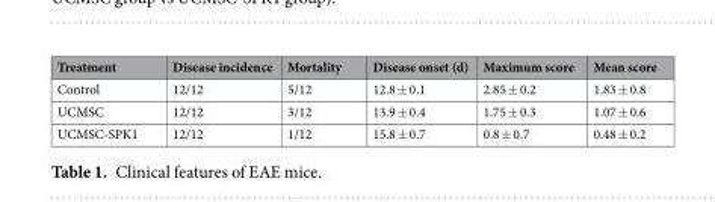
<table><thead><tr><td>Treatment</td><td>Disease incidence</td><td>Mortality</td><td>Disease onset (d)</td><td>Maximum score</td><td>Mean score</td></tr></thead><tbody><tr><td>Control</td><td>12/12</td><td>5/12</td><td>12.8 ± 0.1</td><td>2.85 ± 0.2</td><td>1.83 ± 0.8</td></tr><tr><td>UCMSC</td><td>12/12</td><td>3/12</td><td>13.9 ± 0.4</td><td>1.75 ± 0.3</td><td>1.07 ± 0.6</td></tr><tr><td>UCMSC-SPK1</td><td>12/12</td><td>1/12</td><td>15.8 ± 0.7</td><td>0.8 ± 0.7</td><td>0.48 ± 0.2</td></tr></tbody></table>